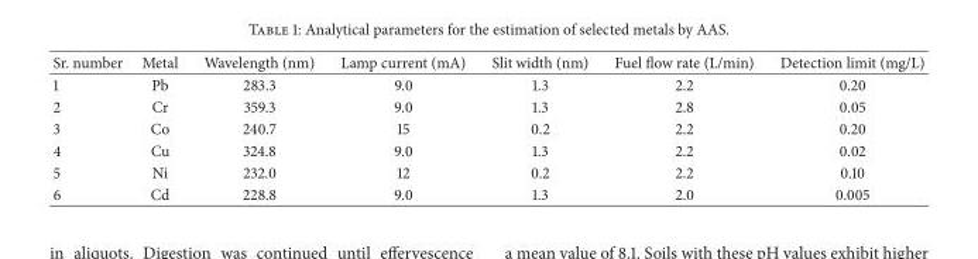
<table><thead><tr><td>Sr. number</td><td>Metal</td><td>Wavelength (nm)</td><td>Lamp current (mA)</td><td>Slit width (nm)</td><td>Fuel flow rate (L/min)</td><td>Detection limit (mg/L)</td></tr></thead><tbody><tr><td>1</td><td>Pb</td><td>283.3</td><td>9.0</td><td>1.3</td><td>2.2</td><td>0.20</td></tr><tr><td>2</td><td>Cr</td><td>359.3</td><td>9.0</td><td>1.3</td><td>2.8</td><td>0.05</td></tr><tr><td>3</td><td>Co</td><td>240.7</td><td>15</td><td>0.2</td><td>2.2</td><td>0.20</td></tr><tr><td>4</td><td>Cu</td><td>324.8</td><td>9.0</td><td>1.3</td><td>2.2</td><td>0.02</td></tr><tr><td>5</td><td>Ni</td><td>232.0</td><td>12</td><td>0.2</td><td>2.2</td><td>0.10</td></tr><tr><td>6</td><td>Cd</td><td>228.8</td><td>9.0</td><td>1.3</td><td>2.0</td><td>0.005</td></tr></tbody></table>